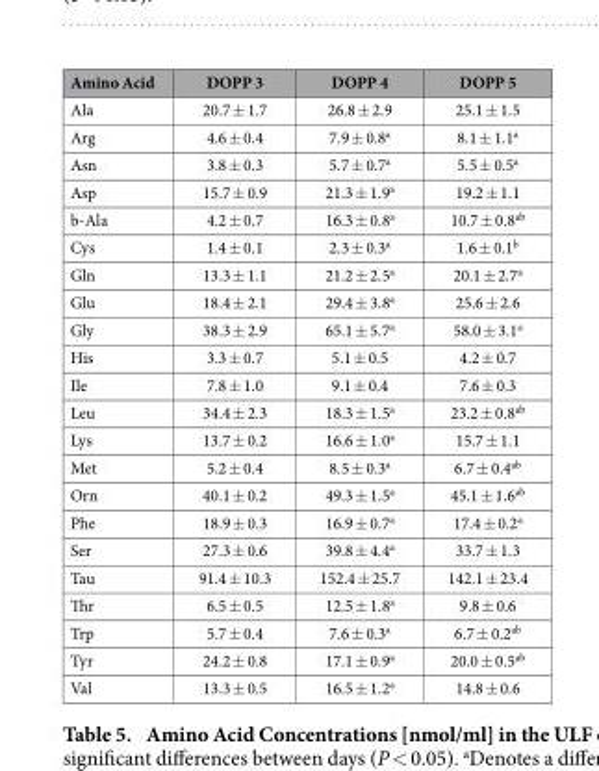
<table><thead><tr><td>Amino Acid</td><td>DOPP 3</td><td>DOPP 4</td><td>DOPP 5</td></tr></thead><tbody><tr><td>Ala</td><td>20.7 ± 1.7</td><td>26.8 ± 2.9</td><td>25.1 ± 1.5</td></tr><tr><td>Arg</td><td>4.6 ± 0.4</td><td>7.9 ± 0.8<sup>a</sup></td><td>8.1 ± 1.1<sup>a</sup></td></tr><tr><td>Asn</td><td>3.8 ± 0.3</td><td>5.7 ± 0.7<sup>a</sup></td><td>5.5 ± 0.5<sup>a</sup></td></tr><tr><td>Asp</td><td>15.7 ± 0.9</td><td>21.3 ± 1.9<sup>a</sup></td><td>19.2 ± 1.1</td></tr><tr><td>b-Ala</td><td>4.2 ± 0.7</td><td>16.3 ± 0.8<sup>a</sup></td><td>10.7 ± 0.8<sup>ab</sup></td></tr><tr><td>Cys</td><td>1.4 ± 0.1</td><td>2.3 ± 0.3<sup>a</sup></td><td>1.6 ± 0.1<sup>b</sup></td></tr><tr><td>Gln</td><td>13.3 ± 1.1</td><td>21.2 ± 2.5<sup>a</sup></td><td>20.1 ± 2.7<sup>a</sup></td></tr><tr><td>Glu</td><td>18.4 ± 2.1</td><td>29.4 ± 3.8<sup>a</sup></td><td>25.6 ± 2.6</td></tr><tr><td>Gly</td><td>38.3 ± 2.9</td><td>65.1 ± 5.7<sup>a</sup></td><td>58.0 ± 3.1<sup>a</sup></td></tr><tr><td>His</td><td>3.3 ± 0.7</td><td>5.1 ± 0.5</td><td>4.2 ± 0.7</td></tr><tr><td>Ile</td><td>7.8 ± 1.0</td><td>9.1 ± 0.4</td><td>7.6 ± 0.3</td></tr><tr><td>Leu</td><td>34.4 ± 2.3</td><td>18.3 ± 1.5<sup>a</sup></td><td>23.2 ± 0.8<sup>ab</sup></td></tr><tr><td>Lys</td><td>13.7 ± 0.2</td><td>16.6 ± 1.0<sup>a</sup></td><td>15.7 ± 1.1</td></tr><tr><td>Met</td><td>5.2 ± 0.4</td><td>8.5 ± 0.3<sup>a</sup></td><td>6.7 ± 0.4<sup>ab</sup></td></tr><tr><td>Orn</td><td>40.1 ± 0.2</td><td>49.3 ± 1.5<sup>a</sup></td><td>45.1 ± 1.6<sup>ab</sup></td></tr><tr><td>Phe</td><td>18.9 ± 0.3</td><td>16.9 ± 0.7<sup>a</sup></td><td>17.4 ± 0.2<sup>a</sup></td></tr><tr><td>Ser</td><td>27.3 ± 0.6</td><td>39.8 ± 4.4<sup>a</sup></td><td>33.7 ± 1.3</td></tr><tr><td>Tau</td><td>91.4 ± 10.3</td><td>152.4 ± 25.7</td><td>142.1 ± 23.4</td></tr><tr><td>Thr</td><td>6.5 ± 0.5</td><td>12.5 ± 1.8<sup>a</sup></td><td>9.8 ± 0.6</td></tr><tr><td>Trp</td><td>5.7 ± 0.4</td><td>7.6 ± 0.3<sup>a</sup></td><td>6.7 ± 0.2<sup>ab</sup></td></tr><tr><td>Tyr</td><td>24.2 ± 0.8</td><td>17.1 ± 0.9<sup>a</sup></td><td>20.0 ± 0.5<sup>ab</sup></td></tr><tr><td>Val</td><td>13.3 ± 0.5</td><td>16.5 ± 1.2<sup>a</sup></td><td>14.8 ± 0.6</td></tr></tbody></table>